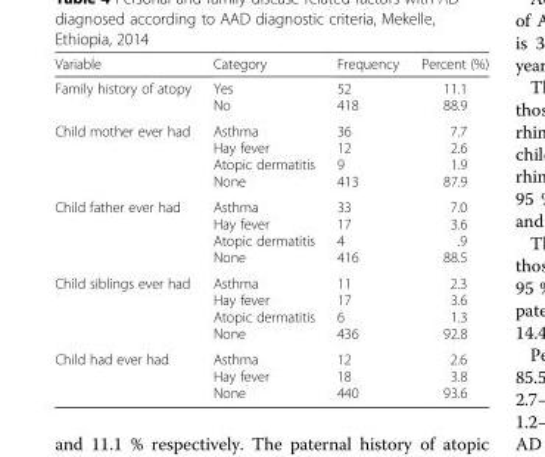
<table><thead><tr><td>Variable</td><td>Category</td><td>Frequency</td><td>Percent (%)</td></tr></thead><tbody><tr><td>Family history of atopy</td><td>Yes No</td><td>52 418</td><td>11.1 88.9</td></tr><tr><td>Child mother ever had</td><td>Asthma Hay fever Atopic dermatitis None</td><td>36 12 9 413</td><td>7.7 2.6 1.9 87.9</td></tr><tr><td>Child father ever had</td><td>Asthma Hay fever Atopic dermatitis None</td><td>33 17 4 416</td><td>7.0 3.6 .9 88.5</td></tr><tr><td>Child siblings ever had</td><td>Asthma Hay fever Atopic dermatitis None</td><td>11 17 6 436</td><td>2.3 3.6 1.3 92.8</td></tr><tr><td>Child had ever had</td><td>Asthma Hay fever None</td><td>12 18 440</td><td>2.6 3.8 93.6</td></tr></tbody></table>